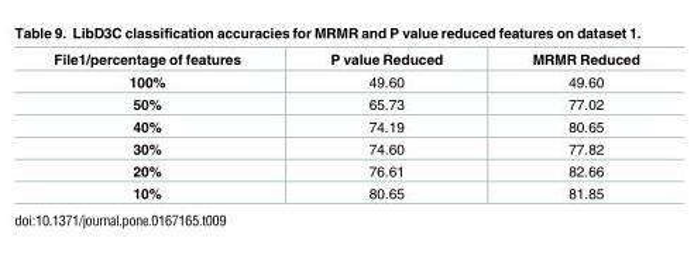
<table><thead><tr><td>File1/percentage of features</td><td>P value Reduced</td><td>MRMR Reduced</td></tr></thead><tbody><tr><td>100%</td><td>49.60</td><td>49.60</td></tr><tr><td>50%</td><td>65.73</td><td>77.02</td></tr><tr><td>40%</td><td>74.19</td><td>80.65</td></tr><tr><td>30%</td><td>74.60</td><td>77.82</td></tr><tr><td>20%</td><td>76.61</td><td>82.66</td></tr><tr><td>10%</td><td>80.65</td><td>81.85</td></tr></tbody></table>